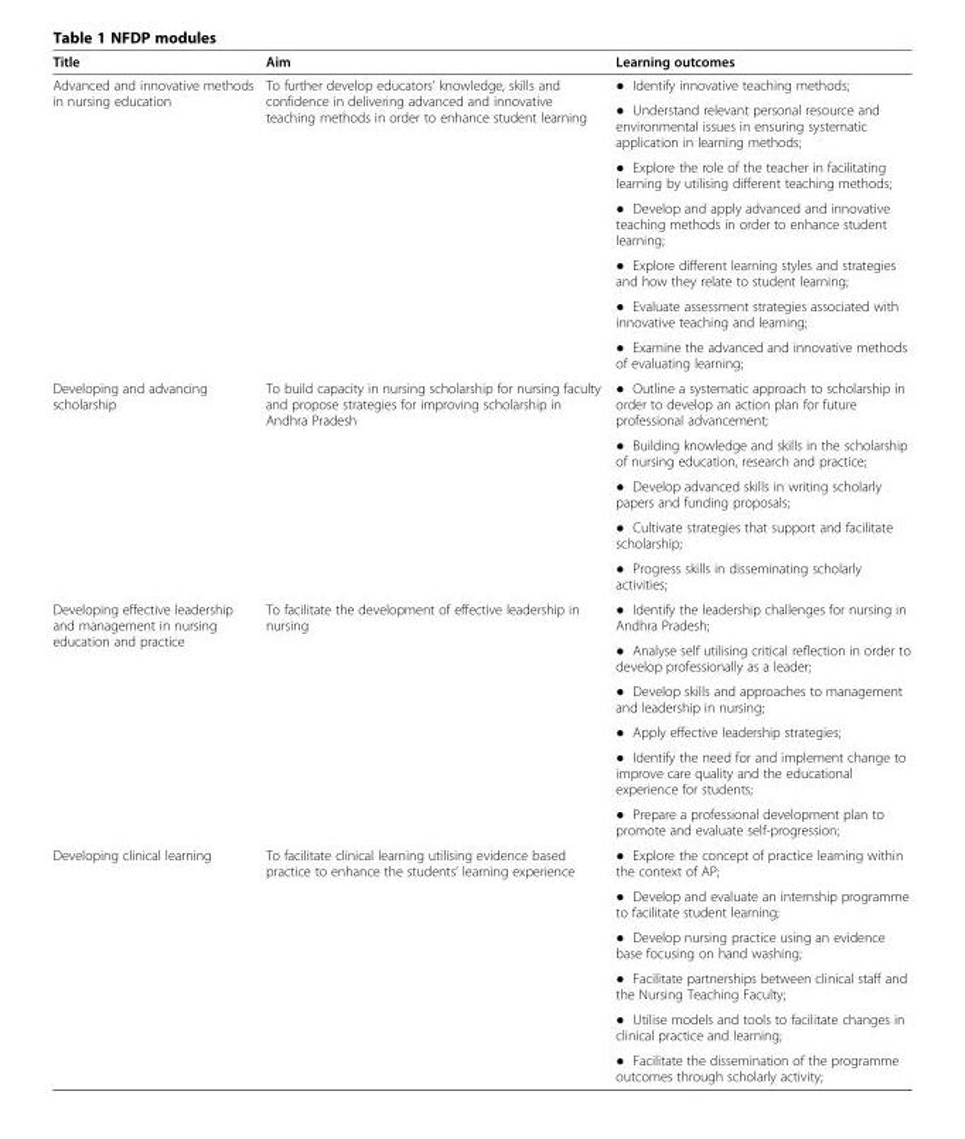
<table><thead><tr><td>Title</td><td>Aim</td><td>Learning outcomes</td></tr></thead><tbody><tr><td rowspan="7">Advanced and innovative methods in nursing education</td><td rowspan="7">To further develop educators’ knowledge, skills and confidence in delivering advanced and innovative teaching methods in order to enhance student learning</td><td>● Identify innovative teaching methods;</td></tr><tr><td>● Understand relevant personal resource and environmental issues in ensuring systematic application in learning methods;</td></tr><tr><td>● Explore the role of the teacher in facilitating learning by utilising different teaching methods;</td></tr><tr><td>● Develop and apply advanced and innovative teaching methods in order to enhance student learning;</td></tr><tr><td>● Explore different learning styles and strategies and how they relate to student learning;</td></tr><tr><td>● Evaluate assessment strategies associated with innovative teaching and learning;</td></tr><tr><td>● Examine the advanced and innovative methods of evaluating learning;</td></tr><tr><td rowspan="5">Developing and advancing scholarship</td><td rowspan="5">To build capacity in nursing scholarship for nursing faculty and propose strategies for improving scholarship in Andhra Pradesh</td><td>● Outline a systematic approach to scholarship in order to develop an action plan for future professional advancement;</td></tr><tr><td>● Building knowledge and skills in the scholarship of nursing education, research and practice;</td></tr><tr><td>● Develop advanced skills in writing scholarly papers and funding proposals;</td></tr><tr><td>● Cultivate strategies that support and facilitate scholarship;</td></tr><tr><td>● Progress skills in disseminating scholarly activities;</td></tr><tr><td rowspan="6">Developing effective leadership and management in nursing education and practice</td><td rowspan="6">To facilitate the development of effective leadership in nursing</td><td>● Identify the leadership challenges for nursing in Andhra Pradesh;</td></tr><tr><td>● Analyse self utilising critical reflection in order to develop professionally as a leader;</td></tr><tr><td>● Develop skills and approaches to management and leadership in nursing;</td></tr><tr><td>● Apply effective leadership strategies;</td></tr><tr><td>● Identify the need for and implement change to improve care quality and the educational experience for students;</td></tr><tr><td>● Prepare a professional development plan to promote and evaluate self-progression;</td></tr><tr><td rowspan="6">Developing clinical learning</td><td rowspan="6">To facilitate clinical learning utilising evidence based practice to enhance the students’ learning experience</td><td>● Explore the concept of practice learning within the context of AP;</td></tr><tr><td>● Develop and evaluate an internship programme to facilitate student learning;</td></tr><tr><td>● Develop nursing practice using an evidence base focusing on hand washing;</td></tr><tr><td>● Facilitate partnerships between clinical staff and the Nursing Teaching Faculty;</td></tr><tr><td>● Utilise models and tools to facilitate changes in clinical practice and learning;</td></tr><tr><td>● Facilitate the dissemination of the programme outcomes through scholarly activity;</td></tr></tbody></table>